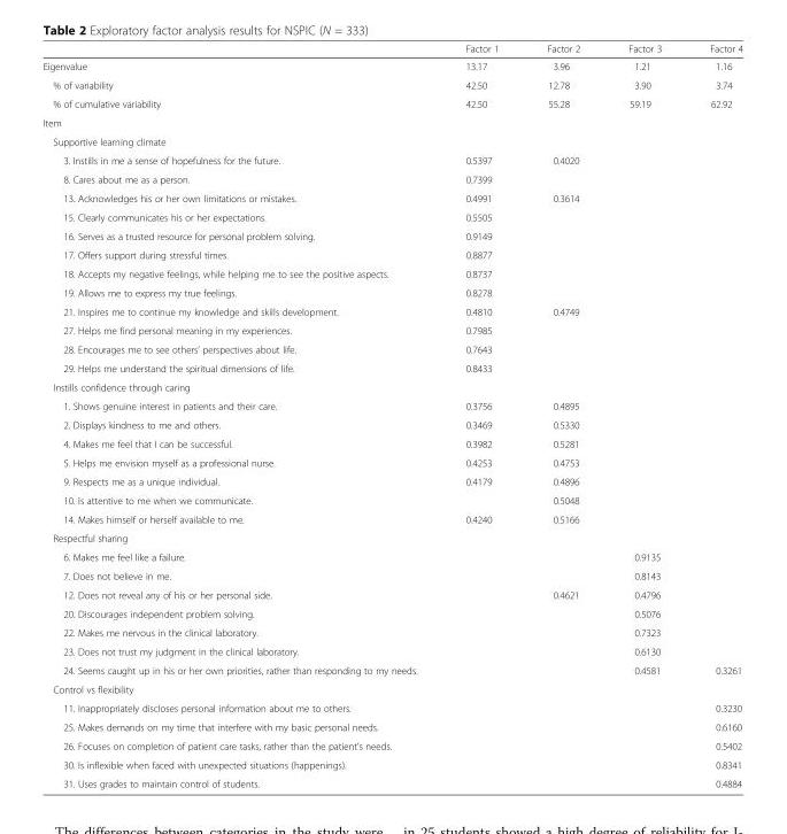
<table><thead><tr><td></td><td>Factor 1</td><td>Factor 2</td><td>Factor 3</td><td>Factor 4</td></tr></thead><tbody><tr><td>Eigenvalue</td><td>13.17</td><td>3.96</td><td>1.21</td><td>1.16</td></tr><tr><td>% of variability</td><td>42.50</td><td>12.78</td><td>3.90</td><td>3.74</td></tr><tr><td>% of cumulative variability</td><td>42.50</td><td>55.28</td><td>59.19</td><td>62.92</td></tr><tr><td colspan="5">Item</td></tr><tr><td colspan="5">Supportive learning climate</td></tr><tr><td>3. Instills in me a sense of hopefulness for the future.</td><td>0.5397</td><td>0.4020</td><td></td><td></td></tr><tr><td>8. Cares about me as a person.</td><td>0.7399</td><td></td><td></td><td></td></tr><tr><td>13. Acknowledges his or her own limitations or mistakes.</td><td>0.4991</td><td>0.3614</td><td></td><td></td></tr><tr><td>15. Clearly communicates his or her expectations.</td><td>0.5505</td><td></td><td></td><td></td></tr><tr><td>16. Serves as a trusted resource for personal problem solving.</td><td>0.9149</td><td></td><td></td><td></td></tr><tr><td>17. Offers support during stressful times.</td><td>0.8877</td><td></td><td></td><td></td></tr><tr><td>18. Accepts my negative feelings, while helping me to see the positive aspects.</td><td>0.8737</td><td></td><td></td><td></td></tr><tr><td>19. Allows me to express my true feelings.</td><td>0.8278</td><td></td><td></td><td></td></tr><tr><td>21. Inspires me to continue my knowledge and skills development.</td><td>0.4810</td><td>0.4749</td><td></td><td></td></tr><tr><td>27. Helps me find personal meaning in my experiences.</td><td>0.7985</td><td></td><td></td><td></td></tr><tr><td>28. Encourages me to see others’ perspectives about life.</td><td>0.7643</td><td></td><td></td><td></td></tr><tr><td>29. Helps me understand the spiritual dimensions of life.</td><td>0.8433</td><td></td><td></td><td></td></tr><tr><td colspan="5">Instills confidence through caring</td></tr><tr><td>1. Shows genuine interest in patients and their care.</td><td>0.3756</td><td>0.4895</td><td></td><td></td></tr><tr><td>2. Displays kindness to me and others.</td><td>0.3469</td><td>0.5330</td><td></td><td></td></tr><tr><td>4. Makes me feel that I can be successful.</td><td>0.3982</td><td>0.5281</td><td></td><td></td></tr><tr><td>5. Helps me envision myself as a professional nurse.</td><td>0.4253</td><td>0.4753</td><td></td><td></td></tr><tr><td>9. Respects me as a unique individual.</td><td>0.4179</td><td>0.4896</td><td></td><td></td></tr><tr><td>10. Is attentive to me when we communicate.</td><td></td><td>0.5048</td><td></td><td></td></tr><tr><td>14. Makes himself or herself available to me.</td><td>0.4240</td><td>0.5166</td><td></td><td></td></tr><tr><td colspan="5">Respectful sharing</td></tr><tr><td>6. Makes me feel like a failure.</td><td></td><td></td><td>0.9135</td><td></td></tr><tr><td>7. Does not believe in me.</td><td></td><td></td><td>0.8143</td><td></td></tr><tr><td>12. Does not reveal any of his or her personal side.</td><td></td><td>0.4621</td><td>0.4796</td><td></td></tr><tr><td>20. Discourages independent problem solving.</td><td></td><td></td><td>0.5076</td><td></td></tr><tr><td>22. Makes me nervous in the clinical laboratory.</td><td></td><td></td><td>0.7323</td><td></td></tr><tr><td>23. Does not trust my judgment in the clinical laboratory.</td><td></td><td></td><td>0.6130</td><td></td></tr><tr><td>24. Seems caught up in his or her own priorities, rather than responding to my needs.</td><td></td><td></td><td>0.4581</td><td>0.3261</td></tr><tr><td colspan="5">Control vs flexibility</td></tr><tr><td>11. Inappropriately discloses personal information about me to others.</td><td></td><td></td><td></td><td>0.3230</td></tr><tr><td>25. Makes demands on my time that interfere with my basic personal needs.</td><td></td><td></td><td></td><td>0.6160</td></tr><tr><td>26. Focuses on completion of patient care tasks, rather than the patient’s needs.</td><td></td><td></td><td></td><td>0.5402</td></tr><tr><td>30. Is inflexible when faced with unexpected situations (happenings).</td><td></td><td></td><td></td><td>0.8341</td></tr><tr><td>31. Uses grades to maintain control of students.</td><td></td><td></td><td></td><td>0.4884</td></tr></tbody></table>